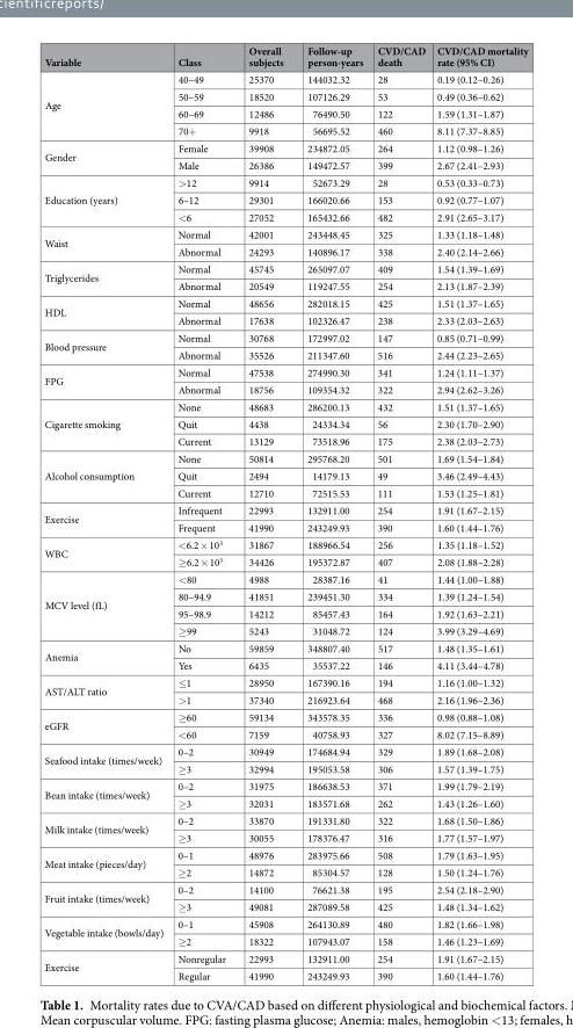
<table><thead><tr><td>Variable</td><td>Class</td><td>Overall subjects</td><td>Follow-up person-years</td><td>CVD/CAD death</td><td>CVD/CAD mortality rate (95% CI)</td></tr></thead><tbody><tr><td rowspan="4">Age</td><td>40–49</td><td>25370</td><td>144032.32</td><td>28</td><td>0.19 (0.12–0.26)</td></tr><tr><td>50–59</td><td>18520</td><td>107126.29</td><td>53</td><td>0.49 (0.36–0.62)</td></tr><tr><td>60–69</td><td>12486</td><td>76490.50</td><td>122</td><td>1.59 (1.31–1.87)</td></tr><tr><td>70+</td><td>9918</td><td>56695.52</td><td>460</td><td>8.11 (7.37–8.85)</td></tr><tr><td rowspan="2">Gender</td><td>Female</td><td>39908</td><td>234872.05</td><td>264</td><td>1.12 (0.98–1.26)</td></tr><tr><td>Male</td><td>26386</td><td>149472.57</td><td>399</td><td>2.67 (2.41–2.93)</td></tr><tr><td rowspan="3">Education (years)</td><td>&gt;12</td><td>9914</td><td>52673.29</td><td>28</td><td>0.53 (0.33–0.73)</td></tr><tr><td>6–12</td><td>29301</td><td>166020.66</td><td>153</td><td>0.92 (0.77–1.07)</td></tr><tr><td>&lt;6</td><td>27052</td><td>165432.66</td><td>482</td><td>2.91 (2.65–3.17)</td></tr><tr><td rowspan="2">Waist</td><td>Normal</td><td>42001</td><td>243448.45</td><td>325</td><td>1.33 (1.18–1.48)</td></tr><tr><td>Abnormal</td><td>24293</td><td>140896.17</td><td>338</td><td>2.40 (2.14–2.66)</td></tr><tr><td rowspan="2">Triglycerides</td><td>Normal</td><td>45745</td><td>265097.07</td><td>409</td><td>1.54 (1.39–1.69)</td></tr><tr><td>Abnormal</td><td>20549</td><td>119247.55</td><td>254</td><td>2.13 (1.87–2.39)</td></tr><tr><td rowspan="2">HDL</td><td>Normal</td><td>48656</td><td>282018.15</td><td>425</td><td>1.51 (1.37–1.65)</td></tr><tr><td>Abnormal</td><td>17638</td><td>102326.47</td><td>238</td><td>2.33 (2.03–2.63)</td></tr><tr><td rowspan="2">Blood pressure</td><td>Normal</td><td>30768</td><td>172997.02</td><td>147</td><td>0.85 (0.71–0.99)</td></tr><tr><td>Abnormal</td><td>35526</td><td>211347.60</td><td>516</td><td>2.44 (2.23–2.65)</td></tr><tr><td rowspan="2">FPG</td><td>Normal</td><td>47538</td><td>274990.30</td><td>341</td><td>1.24 (1.11–1.37)</td></tr><tr><td>Abnormal</td><td>18756</td><td>109354.32</td><td>322</td><td>2.94 (2.62–3.26)</td></tr><tr><td rowspan="3">Cigarette smoking</td><td>None</td><td>48683</td><td>286200.13</td><td>432</td><td>1.51 (1.37–1.65)</td></tr><tr><td>Quit</td><td>4438</td><td>24334.34</td><td>56</td><td>2.30 (1.70–2.90)</td></tr><tr><td>Current</td><td>13129</td><td>73518.96</td><td>175</td><td>2.38 (2.03–2.73)</td></tr><tr><td rowspan="3">Alcohol consumption</td><td>None</td><td>50814</td><td>295768.20</td><td>501</td><td>1.69 (1.54–1.84)</td></tr><tr><td>Quit</td><td>2494</td><td>14179.13</td><td>49</td><td>3.46 (2.49–4.43)</td></tr><tr><td>Current</td><td>12710</td><td>72515.53</td><td>111</td><td>1.53 (1.25–1.81)</td></tr><tr><td rowspan="2">Exercise</td><td>Infrequent</td><td>22993</td><td>132911.00</td><td>254</td><td>1.91 (1.67–2.15)</td></tr><tr><td>Frequent</td><td>41990</td><td>243249.93</td><td>390</td><td>1.60 (1.44–1.76)</td></tr><tr><td rowspan="2">WBC</td><td>&lt;6.2 × 10<sup>3</sup></td><td>31867</td><td>188966.54</td><td>256</td><td>1.35 (1.18–1.52)</td></tr><tr><td>≥6.2 × 10<sup>3</sup></td><td>34426</td><td>195372.87</td><td>407</td><td>2.08 (1.88–2.28)</td></tr><tr><td rowspan="4">MCV level (fL)</td><td>&lt;80</td><td>4988</td><td>28387.16</td><td>41</td><td>1.44 (1.00–1.88)</td></tr><tr><td>80–94.9</td><td>41851</td><td>239451.30</td><td>334</td><td>1.39 (1.24–1.54)</td></tr><tr><td>95–98.9</td><td>14212</td><td>85457.43</td><td>164</td><td>1.92 (1.63–2.21)</td></tr><tr><td>≥99</td><td>5243</td><td>31048.72</td><td>124</td><td>3.99 (3.29–4.69)</td></tr><tr><td rowspan="2">Anemia</td><td>No</td><td>59859</td><td>348807.40</td><td>517</td><td>1.48 (1.35–1.61)</td></tr><tr><td>Yes</td><td>6435</td><td>35537.22</td><td>146</td><td>4.11 (3.44–4.78)</td></tr><tr><td rowspan="2">AST/ALT ratio</td><td>≤1</td><td>28950</td><td>167390.16</td><td>194</td><td>1.16 (1.00–1.32)</td></tr><tr><td>&gt;1</td><td>37340</td><td>216923.64</td><td>468</td><td>2.16 (1.96–2.36)</td></tr><tr><td rowspan="2">eGFR</td><td>≥60</td><td>59134</td><td>343578.35</td><td>336</td><td>0.98 (0.88–1.08)</td></tr><tr><td>&lt;60</td><td>7159</td><td>40758.93</td><td>327</td><td>8.02 (7.15–8.89)</td></tr><tr><td rowspan="2">Seafood intake (times/week)</td><td>0–2</td><td>30949</td><td>174684.94</td><td>329</td><td>1.89 (1.68–2.08)</td></tr><tr><td>≥3</td><td>32994</td><td>195053.58</td><td>306</td><td>1.57 (1.39–1.75)</td></tr><tr><td rowspan="2">Bean intake (times/week)</td><td>0–2</td><td>31975</td><td>186638.53</td><td>371</td><td>1.99 (1.79–2.19)</td></tr><tr><td>≥3</td><td>32031</td><td>183571.68</td><td>262</td><td>1.43 (1.26–1.60)</td></tr><tr><td rowspan="2">Milk intake (times/week)</td><td>0–2</td><td>33870</td><td>191331.80</td><td>322</td><td>1.68 (1.50–1.86)</td></tr><tr><td>≥3</td><td>30055</td><td>178376.47</td><td>316</td><td>1.77 (1.57–1.97)</td></tr><tr><td rowspan="2">Meat intake (pieces/day)</td><td>0–1</td><td>48976</td><td>283975.66</td><td>508</td><td>1.79 (1.63–1.95)</td></tr><tr><td>≥2</td><td>14872</td><td>85304.57</td><td>128</td><td>1.50 (1.24–1.76)</td></tr><tr><td rowspan="2">Fruit intake (times/week)</td><td>0–2</td><td>14100</td><td>76621.38</td><td>195</td><td>2.54 (2.18–2.90)</td></tr><tr><td>≥3</td><td>49081</td><td>287089.58</td><td>425</td><td>1.48 (1.34–1.62)</td></tr><tr><td rowspan="2">Vegetable intake (bowls/day)</td><td>0–1</td><td>45908</td><td>264130.89</td><td>480</td><td>1.82 (1.66–1.98)</td></tr><tr><td>≥2</td><td>18322</td><td>107943.07</td><td>158</td><td>1.46 (1.23–1.69)</td></tr><tr><td rowspan="2">Exercise</td><td>Nonregular</td><td>22993</td><td>132911.00</td><td>254</td><td>1.91 (1.67–2.15)</td></tr><tr><td>Regular</td><td>41990</td><td>243249.93</td><td>390</td><td>1.60 (1.44–1.76)</td></tr></tbody></table>